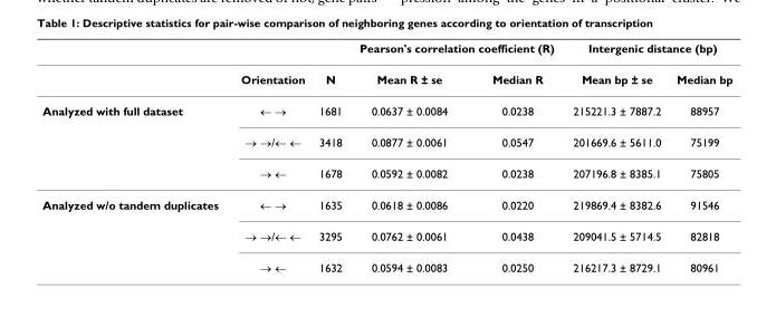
<table><thead><tr><td rowspan="2"></td><td rowspan="2">Orientation</td><td rowspan="2">N</td><td colspan="2">Pearson&#x27;s correlation coefficient (R)</td><td colspan="2">Intergenic distance (bp)</td></tr><tr><td>Mean R ± se</td><td>Median R</td><td>Mean bp ± se</td><td>Median bp</td></tr></thead><tbody><tr><td rowspan="3">Analyzed with full dataset</td><td>← →</td><td>1681</td><td>0.0637 ± 0.0084</td><td>0.0238</td><td>215221.3 ± 7887.2</td><td>88957</td></tr><tr><td>→ →/← ←</td><td>3418</td><td>0.0877 ± 0.0061</td><td>0.0547</td><td>201669.6 ± 5611.0</td><td>75199</td></tr><tr><td>→ ←</td><td>1678</td><td>0.0592 ± 0.0082</td><td>0.0238</td><td>207196.8 ± 8385.1</td><td>75805</td></tr><tr><td rowspan="3">Analyzed w/o tandem duplicates</td><td>← →</td><td>1635</td><td>0.0618 ± 0.0086</td><td>0.0220</td><td>219869.4 ± 8382.6</td><td>91546</td></tr><tr><td>→ →/← ←</td><td>3295</td><td>0.0762 ± 0.0061</td><td>0.0438</td><td>209041.5 ± 5714.5</td><td>82818</td></tr><tr><td>→ ←</td><td>1632</td><td>0.0594 ± 0.0083</td><td>0.0250</td><td>216217.3 ± 8729.1</td><td>80961</td></tr></tbody></table>